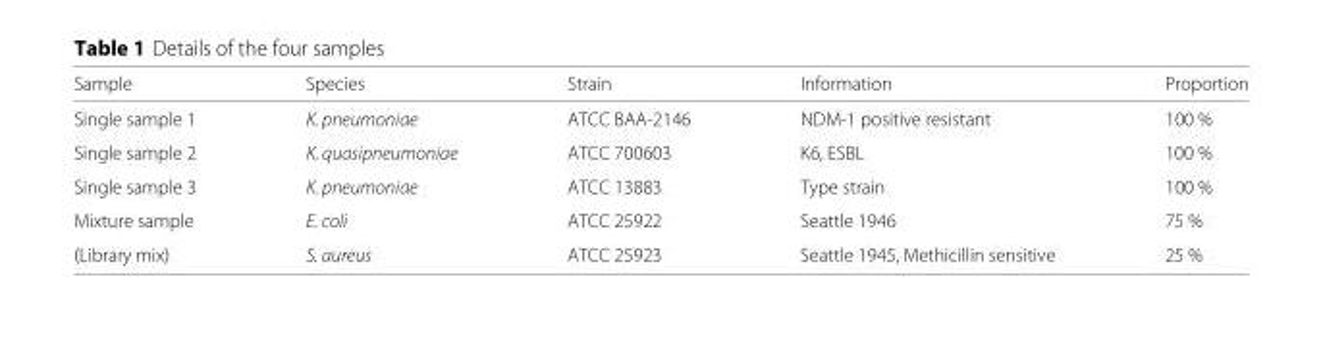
<table><thead><tr><td>Sample</td><td>Species</td><td>Strain</td><td>Information</td><td>Proportion</td></tr></thead><tbody><tr><td>Single sample 1</td><td>K. pneumoniae</td><td>ATCC BAA-2146</td><td>NDM-1 positive resistant</td><td>100 %</td></tr><tr><td>Single sample 2</td><td>K. quasipneumoniae</td><td>ATCC 700603</td><td>K6, ESBL</td><td>100 %</td></tr><tr><td>Single sample 3</td><td>K. pneumoniae</td><td>ATCC 13883</td><td>Type strain</td><td>100 %</td></tr><tr><td>Mixture sample</td><td>E. coli</td><td>ATCC 25922</td><td>Seattle 1946</td><td>75 %</td></tr><tr><td>(Library mix)</td><td>S. aureus</td><td>ATCC 25923</td><td>Seattle 1945, Methicillin sensitive</td><td>25 %</td></tr></tbody></table>